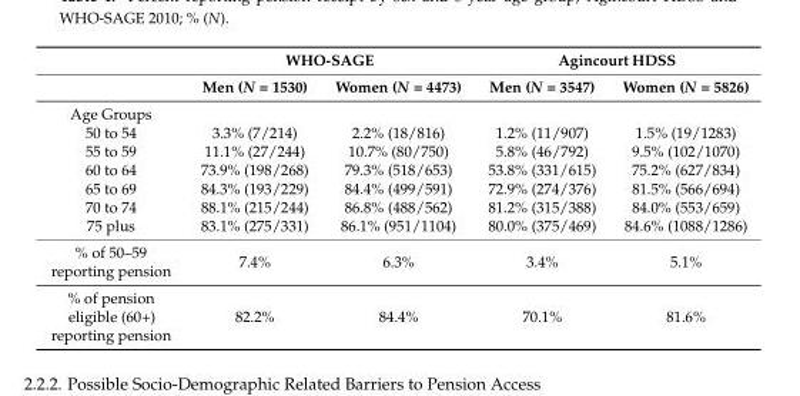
<table><thead><tr><td rowspan="2"></td><td colspan="2">WHO-SAGE</td><td colspan="2">Agincourt HDSS</td></tr><tr><td>Men (N = 1530)</td><td>Women (N = 4473)</td><td>Men (N = 3547)</td><td>Women (N = 5826)</td></tr></thead><tbody><tr><td colspan="5">Age Groups</td></tr><tr><td>50 to 54</td><td>3.3% (7/214)</td><td>2.2% (18/816)</td><td>1.2% (11/907)</td><td>1.5% (19/1283)</td></tr><tr><td>55 to 59</td><td>11.1% (27/244)</td><td>10.7% (80/750)</td><td>5.8% (46/792)</td><td>9.5% (102/1070)</td></tr><tr><td>60 to 64</td><td>73.9% (198/268)</td><td>79.3% (518/653)</td><td>53.8% (331/615)</td><td>75.2% (627/834)</td></tr><tr><td>65 to 69</td><td>84.3% (193/229)</td><td>84.4% (499/591)</td><td>72.9% (274/376)</td><td>81.5% (566/694)</td></tr><tr><td>70 to 74</td><td>88.1% (215/244)</td><td>86.8% (488/562)</td><td>81.2% (315/388)</td><td>84.0% (553/659)</td></tr><tr><td>75 plus</td><td>83.1% (275/331)</td><td>86.1% (951/1104)</td><td>80.0% (375/469)</td><td>84.6% (1088/1286)</td></tr><tr><td>% of 50–59 reporting pension</td><td>7.4%</td><td>6.3%</td><td>3.4%</td><td>5.1%</td></tr><tr><td>% of pension eligible (60+) reporting pension</td><td>82.2%</td><td>84.4%</td><td>70.1%</td><td>81.6%</td></tr></tbody></table>